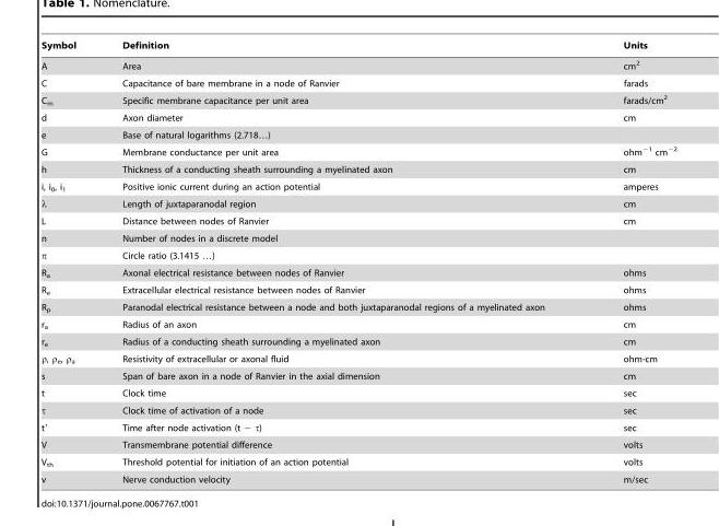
<table><thead><tr><td>Symbol</td><td>Definition</td><td>Units</td></tr></thead><tbody><tr><td>A</td><td>Area</td><td>cm<sup>2</sup></td></tr><tr><td>C</td><td>Capacitance of bare membrane in a node of Ranvier</td><td>farads</td></tr><tr><td>C<sub>m</sub></td><td>Specific membrane capacitance per unit area</td><td>farads/cm<sup>2</sup></td></tr><tr><td>d</td><td>Axon diameter</td><td>cm</td></tr><tr><td>e</td><td>Base of natural logarithms (2.718…)</td><td></td></tr><tr><td>G</td><td>Membrane conductance per unit area</td><td>ohm<sup>−1</sup> cm<sup>−2</sup></td></tr><tr><td>h</td><td>Thickness of a conducting sheath surrounding a myelinated axon</td><td>cm</td></tr><tr><td>i, i<sub>0</sub>, i<sub>1</sub></td><td>Positive ionic current during an action potential</td><td>amperes</td></tr><tr><td>λ</td><td>Length of juxtaparanodal region</td><td>cm</td></tr><tr><td>L</td><td>Distance between nodes of Ranvier</td><td>cm</td></tr><tr><td>n</td><td>Number of nodes in a discrete model</td><td></td></tr><tr><td>π</td><td>Circle ratio (3.1415 …)</td><td></td></tr><tr><td>R<sub>a</sub></td><td>Axonal electrical resistance between nodes of Ranvier</td><td>ohms</td></tr><tr><td>R<sub>e</sub></td><td>Extracellular electrical resistance between nodes of Ranvier</td><td>ohms</td></tr><tr><td>R<sub>p</sub></td><td>Paranodal electrical resistance between a node and both juxtaparanodal regions of a myelinated axon</td><td>ohms</td></tr><tr><td>r<sub>a</sub></td><td>Radius of an axon</td><td>cm</td></tr><tr><td>r<sub>e</sub></td><td>Radius of a conducting sheath surrounding a myelinated axon</td><td>cm</td></tr><tr><td>ρ, ρ<sub>e</sub>, ρ<sub>a</sub></td><td>Resistivity of extracellular or axonal fluid</td><td>ohm-cm</td></tr><tr><td>s</td><td>Span of bare axon in a node of Ranvier in the axial dimension</td><td>cm</td></tr><tr><td>t</td><td>Clock time</td><td>sec</td></tr><tr><td>τ</td><td>Clock time of activation of a node</td><td>sec</td></tr><tr><td>t′</td><td>Time after node activation (t − τ)</td><td>sec</td></tr><tr><td>V</td><td>Transmembrane potential difference</td><td>volts</td></tr><tr><td>V<sub>th</sub></td><td>Threshold potential for initiation of an action potential</td><td>volts</td></tr><tr><td>v</td><td>Nerve conduction velocity</td><td>m/sec</td></tr></tbody></table>